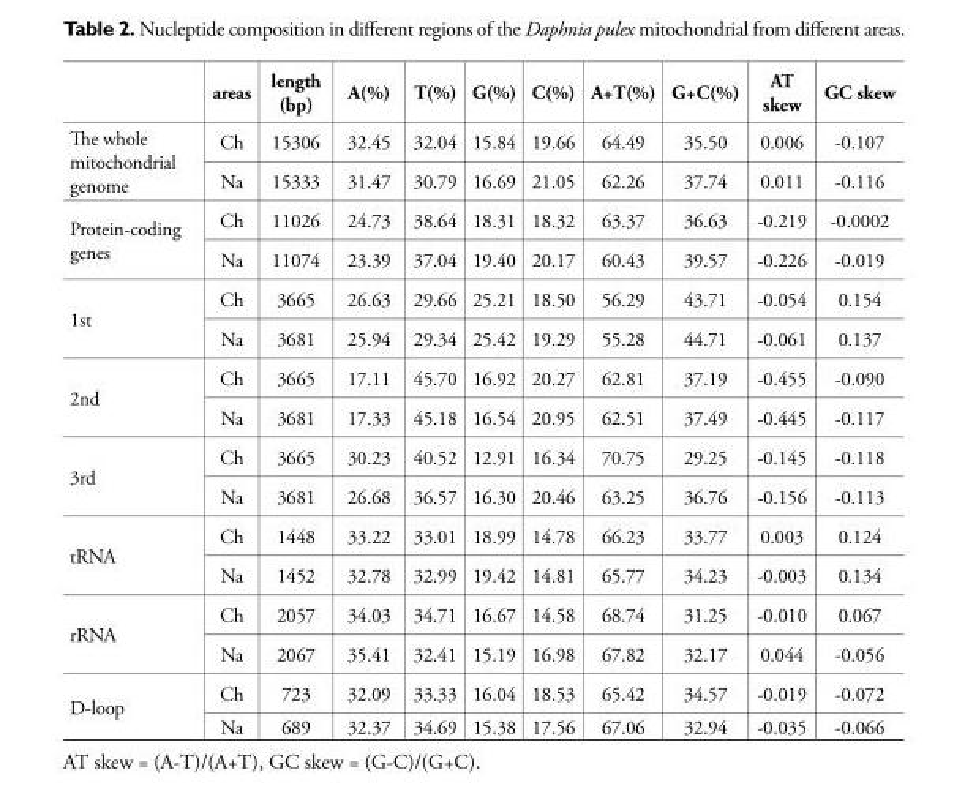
<table><thead><tr><td></td><td>areas</td><td>length (bp)</td><td>A(%)</td><td>T(%)</td><td>G(%)</td><td>C(%)</td><td>A+T(%)</td><td>G+C(%)</td><td>AT skew</td><td>GC skew</td></tr></thead><tbody><tr><td rowspan="2">The whole mitochondrial genome</td><td>Ch</td><td>15306</td><td>32.45</td><td>32.04</td><td>15.84</td><td>19.66</td><td>64.49</td><td>35.50</td><td>0.006</td><td>-0.107</td></tr><tr><td>Na</td><td>15333</td><td>31.47</td><td>30.79</td><td>16.69</td><td>21.05</td><td>62.26</td><td>37.74</td><td>0.011</td><td>-0.116</td></tr><tr><td rowspan="2">Protein-coding genes</td><td>Ch</td><td>11026</td><td>24.73</td><td>38.64</td><td>18.31</td><td>18.32</td><td>63.37</td><td>36.63</td><td>-0.219</td><td>-0.0002</td></tr><tr><td>Na</td><td>11074</td><td>23.39</td><td>37.04</td><td>19.40</td><td>20.17</td><td>60.43</td><td>39.57</td><td>-0.226</td><td>-0.019</td></tr><tr><td rowspan="2">1st</td><td>Ch</td><td>3665</td><td>26.63</td><td>29.66</td><td>25.21</td><td>18.50</td><td>56.29</td><td>43.71</td><td>-0.054</td><td>0.154</td></tr><tr><td>Na</td><td>3681</td><td>25.94</td><td>29.34</td><td>25.42</td><td>19.29</td><td>55.28</td><td>44.71</td><td>-0.061</td><td>0.137</td></tr><tr><td rowspan="2">2nd</td><td>Ch</td><td>3665</td><td>17.11</td><td>45.70</td><td>16.92</td><td>20.27</td><td>62.81</td><td>37.19</td><td>-0.455</td><td>-0.090</td></tr><tr><td>Na</td><td>3681</td><td>17.33</td><td>45.18</td><td>16.54</td><td>20.95</td><td>62.51</td><td>37.49</td><td>-0.445</td><td>-0.117</td></tr><tr><td rowspan="2">3rd</td><td>Ch</td><td>3665</td><td>30.23</td><td>40.52</td><td>12.91</td><td>16.34</td><td>70.75</td><td>29.25</td><td>-0.145</td><td>-0.118</td></tr><tr><td>Na</td><td>3681</td><td>26.68</td><td>36.57</td><td>16.30</td><td>20.46</td><td>63.25</td><td>36.76</td><td>-0.156</td><td>-0.113</td></tr><tr><td rowspan="2">tRNA</td><td>Ch</td><td>1448</td><td>33.22</td><td>33.01</td><td>18.99</td><td>14.78</td><td>66.23</td><td>33.77</td><td>0.003</td><td>0.124</td></tr><tr><td>Na</td><td>1452</td><td>32.78</td><td>32.99</td><td>19.42</td><td>14.81</td><td>65.77</td><td>34.23</td><td>-0.003</td><td>0.134</td></tr><tr><td rowspan="2">rRNA</td><td>Ch</td><td>2057</td><td>34.03</td><td>34.71</td><td>16.67</td><td>14.58</td><td>68.74</td><td>31.25</td><td>-0.010</td><td>0.067</td></tr><tr><td>Na</td><td>2067</td><td>35.41</td><td>32.41</td><td>15.19</td><td>16.98</td><td>67.82</td><td>32.17</td><td>0.044</td><td>-0.056</td></tr><tr><td rowspan="2">D-loop</td><td>Ch</td><td>723</td><td>32.09</td><td>33.33</td><td>16.04</td><td>18.53</td><td>65.42</td><td>34.57</td><td>-0.019</td><td>-0.072</td></tr><tr><td>Na</td><td>689</td><td>32.37</td><td>34.69</td><td>15.38</td><td>17.56</td><td>67.06</td><td>32.94</td><td>-0.035</td><td>-0.066</td></tr></tbody></table>